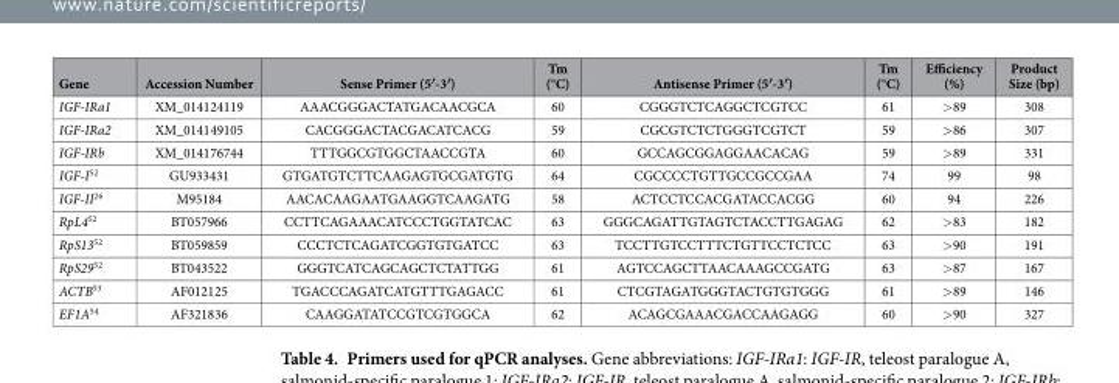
<table><thead><tr><td>Gene</td><td>Accession Number</td><td>Sense Primer (5′-3′)</td><td>Tm (°C)</td><td>Antisense Primer (5′-3′)</td><td>Tm (°C)</td><td>Efficiency (%)</td><td>Product Size (bp)</td></tr></thead><tbody><tr><td>IGF-IRa1</td><td>XM_014124119</td><td>AAACGGGACTATGACAACGCA</td><td>60</td><td>CGGGTCTCAGGCTCGTCC</td><td>61</td><td>&gt; 89</td><td>308</td></tr><tr><td>IGF-IRa2</td><td>XM_014149105</td><td>CACGGGACTACGACATCACG</td><td>59</td><td>CGCGTCTCTGGGTCGTCT</td><td>59</td><td>&gt; 86</td><td>307</td></tr><tr><td>IGF-IRb</td><td>XM_014176744</td><td>TTTGGCGTGGCTAACCGTA</td><td>60</td><td>GCCAGCGGAGGAACACAG</td><td>59</td><td>&gt; 89</td><td>331</td></tr><tr><td>IGF-I<sup>52</sup></td><td>GU933431</td><td>GTGATGTCTTCAAGAGTGCGATGTG</td><td>64</td><td>CGCCCCTGTTGCCGCCGAA</td><td>74</td><td>99</td><td>98</td></tr><tr><td>IGF-II<sup>26</sup></td><td>M95184</td><td>AACACAAGAATGAAGGTCAAGATG</td><td>58</td><td>ACTCCTCCACGATACCACGG</td><td>60</td><td>94</td><td>226</td></tr><tr><td>RpL4<sup>52</sup></td><td>BT057966</td><td>CCTTCAGAAACATCCCTGGTATCAC</td><td>63</td><td>GGGCAGATTGTAGTCTACCTTGAGAG</td><td>62</td><td>&gt; 83</td><td>182</td></tr><tr><td>RpS13<sup>52</sup></td><td>BT059859</td><td>CCCTCTCAGATCGGTGTGATCC</td><td>63</td><td>TCCTTGTCCTTTCTGTTCCTCTCC</td><td>63</td><td>&gt; 90</td><td>191</td></tr><tr><td>RpS29<sup>52</sup></td><td>BT043522</td><td>GGGTCATCAGCAGCTCTATTGG</td><td>61</td><td>AGTCCAGCTTAACAAAGCCGATG</td><td>63</td><td>&gt; 87</td><td>167</td></tr><tr><td>ACTB<sup>53</sup></td><td>AF012125</td><td>TGACCCAGATCATGTTTGAGACC</td><td>61</td><td>CTCGTAGATGGGTACTGTGTGGG</td><td>61</td><td>&gt; 89</td><td>146</td></tr><tr><td>EF1A<sup>54</sup></td><td>AF321836</td><td>CAAGGATATCCGTCGTGGCA</td><td>62</td><td>ACAGCGAAACGACCAAGAGG</td><td>60</td><td>&gt; 90</td><td>327</td></tr></tbody></table>